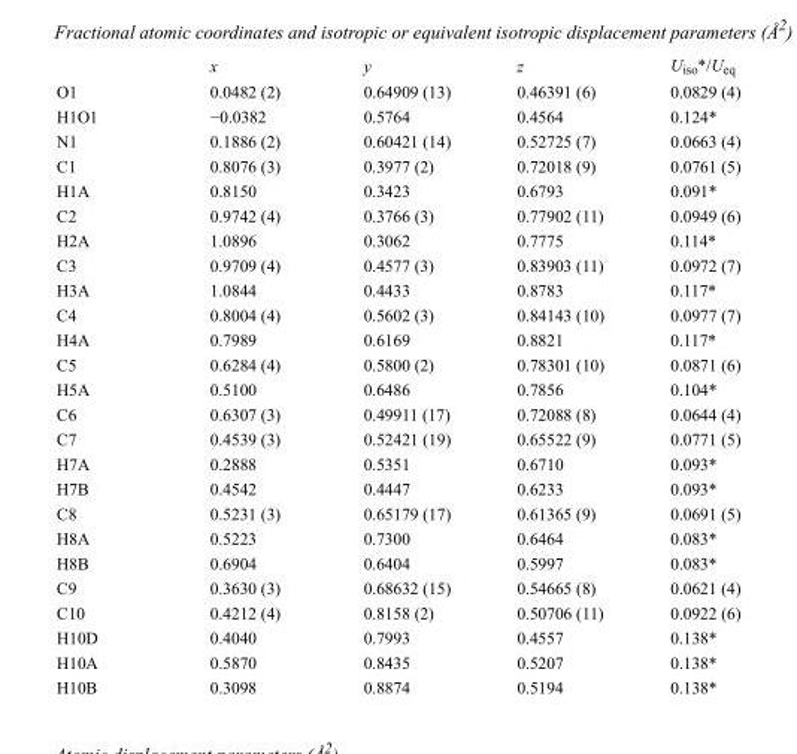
<table><thead><tr><td></td><td>x</td><td>y</td><td>z</td><td>U<sub>iso</sub>*/U<sub>eq</sub></td></tr></thead><tbody><tr><td>O1</td><td>0.0482 (2)</td><td>0.64909 (13)</td><td>0.46391 (6)</td><td>0.0829 (4)</td></tr><tr><td>H1O1</td><td>−0.0382</td><td>0.5764</td><td>0.4564</td><td>0.124*</td></tr><tr><td>N1</td><td>0.1886 (2)</td><td>0.60421 (14)</td><td>0.52725 (7)</td><td>0.0663 (4)</td></tr><tr><td>C1</td><td>0.8076 (3)</td><td>0.3977 (2)</td><td>0.72018 (9)</td><td>0.0761 (5)</td></tr><tr><td>H1A</td><td>0.8150</td><td>0.3423</td><td>0.6793</td><td>0.091*</td></tr><tr><td>C2</td><td>0.9742 (4)</td><td>0.3766 (3)</td><td>0.77902 (11)</td><td>0.0949 (6)</td></tr><tr><td>H2A</td><td>1.0896</td><td>0.3062</td><td>0.7775</td><td>0.114*</td></tr><tr><td>C3</td><td>0.9709 (4)</td><td>0.4577 (3)</td><td>0.83903 (11)</td><td>0.0972 (7)</td></tr><tr><td>H3A</td><td>1.0844</td><td>0.4433</td><td>0.8783</td><td>0.117*</td></tr><tr><td>C4</td><td>0.8004 (4)</td><td>0.5602 (3)</td><td>0.84143 (10)</td><td>0.0977 (7)</td></tr><tr><td>H4A</td><td>0.7989</td><td>0.6169</td><td>0.8821</td><td>0.117*</td></tr><tr><td>C5</td><td>0.6284 (4)</td><td>0.5800 (2)</td><td>0.78301 (10)</td><td>0.0871 (6)</td></tr><tr><td>H5A</td><td>0.5100</td><td>0.6486</td><td>0.7856</td><td>0.104*</td></tr><tr><td>C6</td><td>0.6307 (3)</td><td>0.49911 (17)</td><td>0.72088 (8)</td><td>0.0644 (4)</td></tr><tr><td>C7</td><td>0.4539 (3)</td><td>0.52421 (19)</td><td>0.65522 (9)</td><td>0.0771 (5)</td></tr><tr><td>H7A</td><td>0.2888</td><td>0.5351</td><td>0.6710</td><td>0.093*</td></tr><tr><td>H7B</td><td>0.4542</td><td>0.4447</td><td>0.6233</td><td>0.093*</td></tr><tr><td>C8</td><td>0.5231 (3)</td><td>0.65179 (17)</td><td>0.61365 (9)</td><td>0.0691 (5)</td></tr><tr><td>H8A</td><td>0.5223</td><td>0.7300</td><td>0.6464</td><td>0.083*</td></tr><tr><td>H8B</td><td>0.6904</td><td>0.6404</td><td>0.5997</td><td>0.083*</td></tr><tr><td>C9</td><td>0.3630 (3)</td><td>0.68632 (15)</td><td>0.54665 (8)</td><td>0.0621 (4)</td></tr><tr><td>C10</td><td>0.4212 (4)</td><td>0.8158 (2)</td><td>0.50706 (11)</td><td>0.0922 (6)</td></tr><tr><td>H10D</td><td>0.4040</td><td>0.7993</td><td>0.4557</td><td>0.138*</td></tr><tr><td>H10A</td><td>0.5870</td><td>0.8435</td><td>0.5207</td><td>0.138*</td></tr><tr><td>H10B</td><td>0.3098</td><td>0.8874</td><td>0.5194</td><td>0.138*</td></tr></tbody></table>